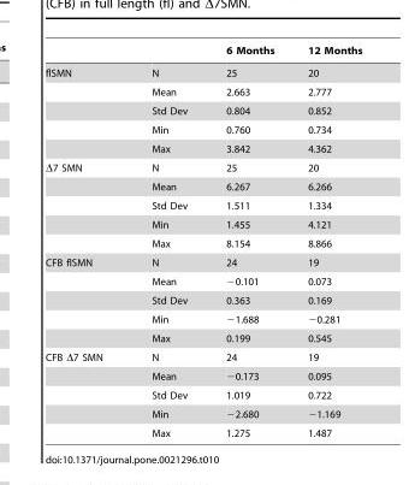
<table><thead><tr><td></td><td></td><td>6 Months</td><td>12 Months</td></tr></thead><tbody><tr><td rowspan="5">flSMN</td><td>N</td><td>25</td><td>20</td></tr><tr><td>Mean</td><td>2.663</td><td>2.777</td></tr><tr><td>Std Dev</td><td>0.804</td><td>0.852</td></tr><tr><td>Min</td><td>0.760</td><td>0.734</td></tr><tr><td>Max</td><td>3.842</td><td>4.362</td></tr><tr><td rowspan="5">Δ7 SMN</td><td>N</td><td>25</td><td>20</td></tr><tr><td>Mean</td><td>6.267</td><td>6.266</td></tr><tr><td>Std Dev</td><td>1.511</td><td>1.334</td></tr><tr><td>Min</td><td>1.455</td><td>4.121</td></tr><tr><td>Max</td><td>8.154</td><td>8.866</td></tr><tr><td rowspan="5">CFB flSMN</td><td>N</td><td>24</td><td>19</td></tr><tr><td>Mean</td><td>−0.101</td><td>0.073</td></tr><tr><td>Std Dev</td><td>0.363</td><td>0.169</td></tr><tr><td>Min</td><td>−1.688</td><td>−0.281</td></tr><tr><td>Max</td><td>0.199</td><td>0.545</td></tr><tr><td rowspan="5">CFB Δ7 SMN</td><td>N</td><td>24</td><td>19</td></tr><tr><td>Mean</td><td>−0.173</td><td>0.095</td></tr><tr><td>Std Dev</td><td>1.019</td><td>0.722</td></tr><tr><td>Min</td><td>−2.680</td><td>−1.169</td></tr><tr><td>Max</td><td>1.275</td><td>1.487</td></tr></tbody></table>